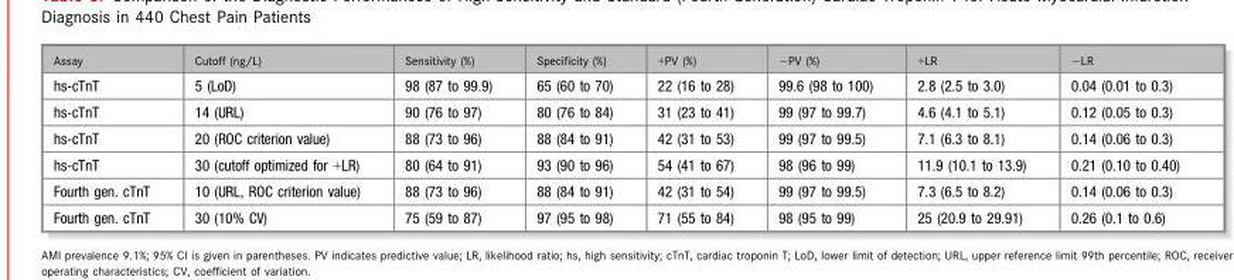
<table><thead><tr><td>Assay</td><td>Cutoff (ng/L)</td><td>Sensitivity (%)</td><td>Specificity (%)</td><td>+PV (%)</td><td>−PV (%)</td><td>+LR</td><td>−LR</td></tr></thead><tbody><tr><td>hs-cTnT</td><td>5 (LoD)</td><td>98 (87 to 99.9)</td><td>65 (60 to 70)</td><td>22 (16 to 28)</td><td>99.6 (98 to 100)</td><td>2.8 (2.5 to 3.0)</td><td>0.04 (0.01 to 0.3)</td></tr><tr><td>hs-cTnT</td><td>14 (URL)</td><td>90 (76 to 97)</td><td>80 (76 to 84)</td><td>31 (23 to 41)</td><td>99 (97 to 99.7)</td><td>4.6 (4.1 to 5.1)</td><td>0.12 (0.05 to 0.3)</td></tr><tr><td>hs-cTnT</td><td>20 (ROC criterion value)</td><td>88 (73 to 96)</td><td>88 (84 to 91)</td><td>42 (31 to 53)</td><td>99 (97 to 99.5)</td><td>7.1 (6.3 to 8.1)</td><td>0.14 (0.06 to 0.3)</td></tr><tr><td>hs-cTnT</td><td>30 (cutoff optimized for +LR)</td><td>80 (64 to 91)</td><td>93 (90 to 96)</td><td>54 (41 to 67)</td><td>98 (96 to 99)</td><td>11.9 (10.1 to 13.9)</td><td>0.21 (0.10 to 0.40)</td></tr><tr><td>Fourth gen. cTnT</td><td>10 (URL, ROC criterion value)</td><td>88 (73 to 96)</td><td>88 (84 to 91)</td><td>42 (31 to 54)</td><td>99 (97 to 99.5)</td><td>7.3 (6.5 to 8.2)</td><td>0.14 (0.06 to 0.3)</td></tr><tr><td>Fourth gen. cTnT</td><td>30 (10% CV)</td><td>75 (59 to 87)</td><td>97 (95 to 98)</td><td>71 (55 to 84)</td><td>98 (95 to 99)</td><td>25 (20.9 to 29.91)</td><td>0.26 (0.1 to 0.6)</td></tr></tbody></table>